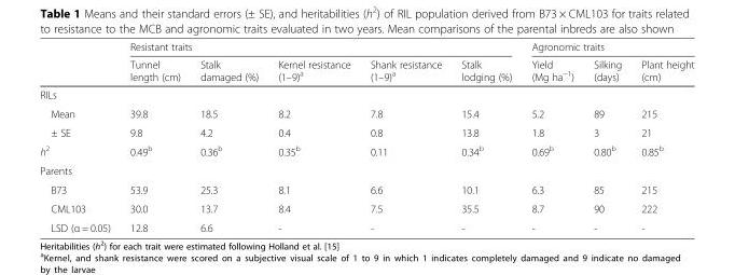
<table><thead><tr><td rowspan="2"></td><td colspan="5">Resistant traits</td><td colspan="3">Agronomic traits</td></tr><tr><td>Tunnel length (cm)</td><td>Stalk damaged (%)</td><td>Kernel resistance (1–9)<sup>a</sup></td><td>Shank resistance (1–9)<sup>a</sup></td><td>Stalk lodging (%)</td><td>Yield (Mg ha<sup>−1</sup>)</td><td>Silking (days)</td><td>Plant height (cm)</td></tr></thead><tbody><tr><td colspan="9">RILs</td></tr><tr><td>Mean</td><td>39.8</td><td>18.5</td><td>8.2</td><td>7.8</td><td>15.4</td><td>5.2</td><td>89</td><td>215</td></tr><tr><td>± SE</td><td>9.8</td><td>4.2</td><td>0.4</td><td>0.8</td><td>13.8</td><td>1.8</td><td>3</td><td>21</td></tr><tr><td>h<sup>2</sup></td><td>0.49<sup>b</sup></td><td>0.36<sup>b</sup></td><td>0.35<sup>b</sup></td><td>0.11</td><td>0.34<sup>b</sup></td><td>0.69<sup>b</sup></td><td>0.80<sup>b</sup></td><td>0.85<sup>b</sup></td></tr><tr><td colspan="9">Parents</td></tr><tr><td>B73</td><td>53.9</td><td>25.3</td><td>8.1</td><td>6.6</td><td>10.1</td><td>6.3</td><td>85</td><td>215</td></tr><tr><td>CML103</td><td>30.0</td><td>13.7</td><td>8.4</td><td>7.5</td><td>35.5</td><td>8.7</td><td>90</td><td>222</td></tr><tr><td>LSD (α = 0.05)</td><td>12.8</td><td>6.6</td><td>-</td><td>-</td><td>-</td><td>-</td><td>-</td><td>-</td></tr></tbody></table>